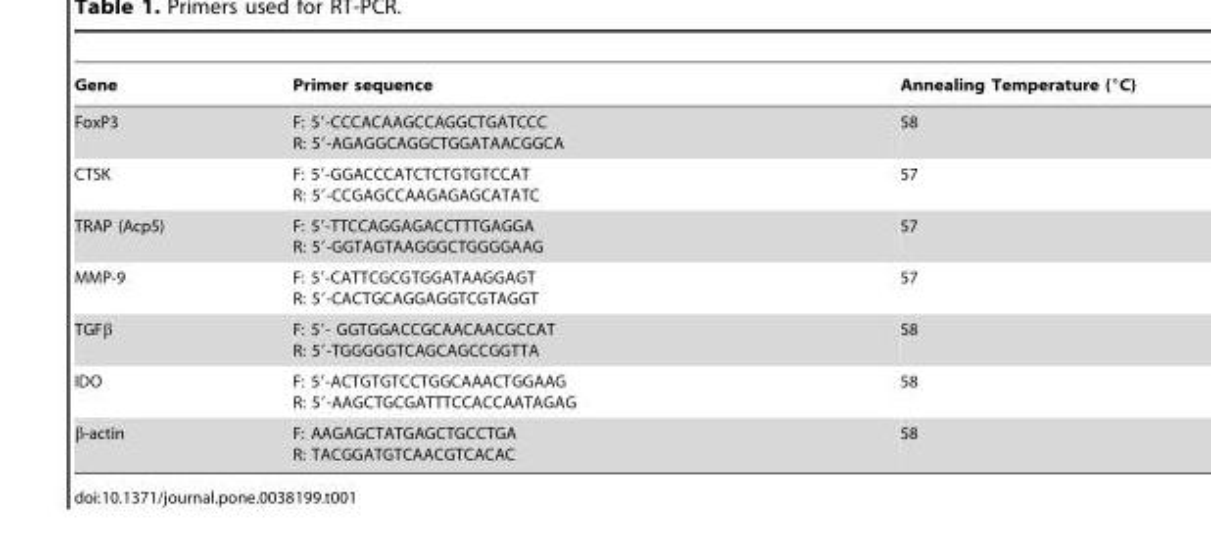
<table><thead><tr><td>Gene</td><td>Primer sequence</td><td>Annealing Temperature (°C)</td></tr></thead><tbody><tr><td>FoxP3</td><td>F: 5′-CCCACAAGCCAGGCTGATCCC R: 5′-AGAGGCAGGCTGGATAACGGCA</td><td>58</td></tr><tr><td>CTSK</td><td>F: 5′-GGACCCATCTCTGTGTCCAT R: 5′-CCGAGCCAAGAGAGCATATC</td><td>57</td></tr><tr><td>TRAP (Acp5)</td><td>F: 5′-TTCCAGGAGACCTTTGAGGA R: 5′-GGTAGTAAGGGCTGGGGAAG</td><td>57</td></tr><tr><td>MMP-9</td><td>F: 5′-CATTCGCGTGGATAAGGAGT R: 5′-CACTGCAGGAGGTCGTAGGT</td><td>57</td></tr><tr><td>TGFβ</td><td>F: 5′- GGTGGACCGCAACAACGCCAT R: 5′-TGGGGGTCAGCAGCCGGTTA</td><td>58</td></tr><tr><td>IDO</td><td>F: 5′-ACTGTGTCCTGGCAAACTGGAAG R: 5′-AAGCTGCGATTTCCACCAATAGAG</td><td>58</td></tr><tr><td>β-actin</td><td>F: AAGAGCTATGAGCTGCCTGA R: TACGGATGTCAACGTCACAC</td><td>58</td></tr></tbody></table>